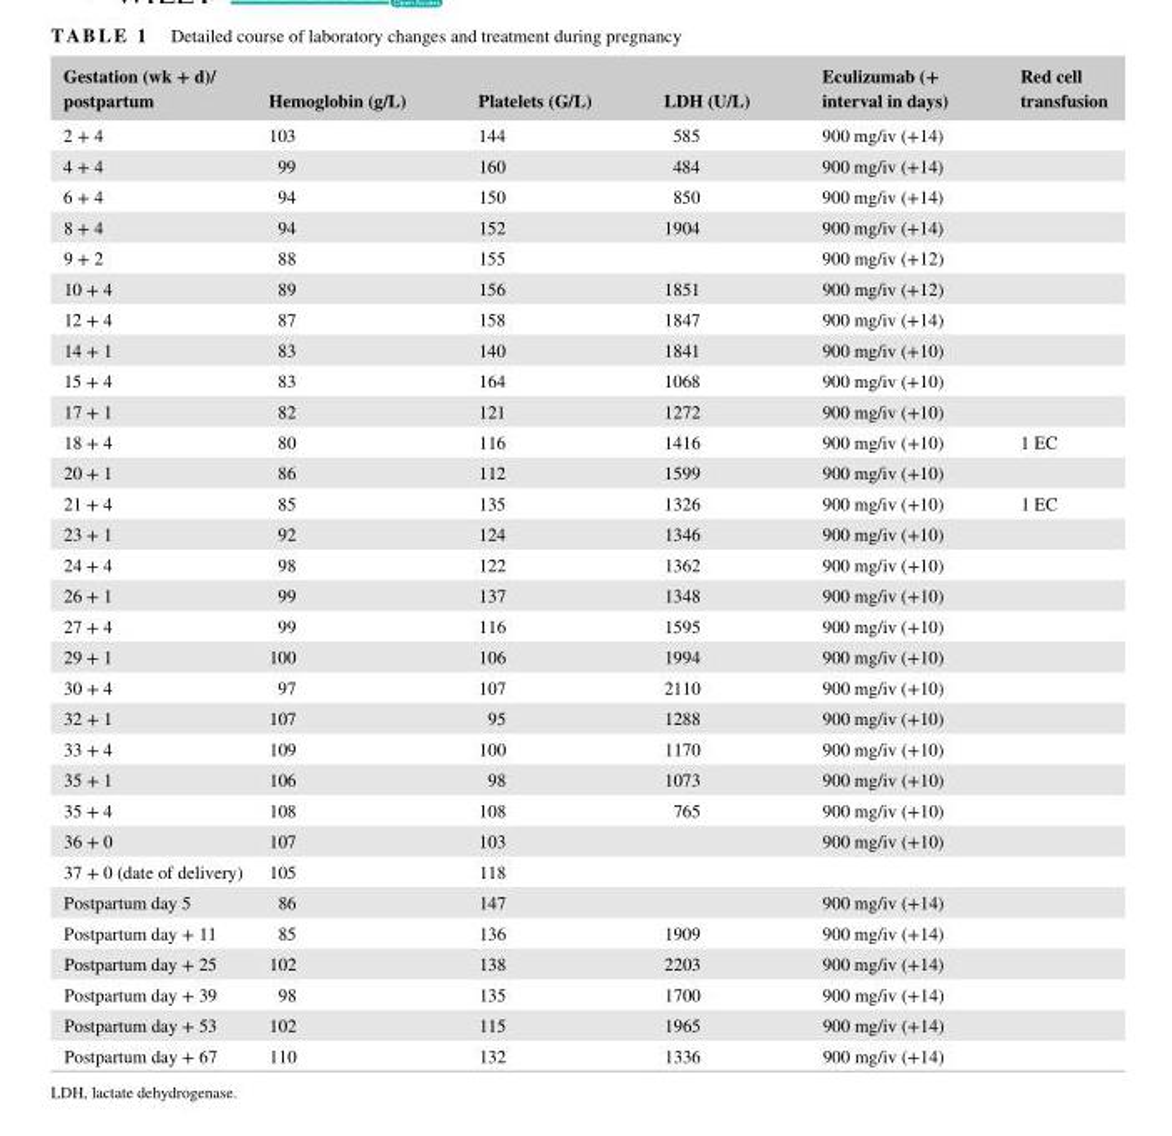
<table><thead><tr><td>Gestation (wk + d)/ postpartum</td><td>Hemoglobin (g/L)</td><td>Platelets (G/L)</td><td>LDH (U/L)</td><td>Eculizumab (+ interval in days)</td><td>Red cell transfusion</td></tr></thead><tbody><tr><td>2 + 4</td><td>103</td><td>144</td><td>585</td><td>900 mg/iv (+14)</td><td></td></tr><tr><td>4 + 4</td><td>99</td><td>160</td><td>484</td><td>900 mg/iv (+14)</td><td></td></tr><tr><td>6 + 4</td><td>94</td><td>150</td><td>850</td><td>900 mg/iv (+14)</td><td></td></tr><tr><td>8 + 4</td><td>94</td><td>152</td><td>1904</td><td>900 mg/iv (+14)</td><td></td></tr><tr><td>9 + 2</td><td>88</td><td>155</td><td></td><td>900 mg/iv (+12)</td><td></td></tr><tr><td>10 + 4</td><td>89</td><td>156</td><td>1851</td><td>900 mg/iv (+12)</td><td></td></tr><tr><td>12 + 4</td><td>87</td><td>158</td><td>1847</td><td>900 mg/iv (+14)</td><td></td></tr><tr><td>14 + 1</td><td>83</td><td>140</td><td>1841</td><td>900 mg/iv (+10)</td><td></td></tr><tr><td>15 + 4</td><td>83</td><td>164</td><td>1068</td><td>900 mg/iv (+10)</td><td></td></tr><tr><td>17 + 1</td><td>82</td><td>121</td><td>1272</td><td>900 mg/iv (+10)</td><td></td></tr><tr><td>18 + 4</td><td>80</td><td>116</td><td>1416</td><td>900 mg/iv (+10)</td><td>1 EC</td></tr><tr><td>20 + 1</td><td>86</td><td>112</td><td>1599</td><td>900 mg/iv (+10)</td><td></td></tr><tr><td>21 + 4</td><td>85</td><td>135</td><td>1326</td><td>900 mg/iv (+10)</td><td>1 EC</td></tr><tr><td>23 + 1</td><td>92</td><td>124</td><td>1346</td><td>900 mg/iv (+10)</td><td></td></tr><tr><td>24 + 4</td><td>98</td><td>122</td><td>1362</td><td>900 mg/iv (+10)</td><td></td></tr><tr><td>26 + 1</td><td>99</td><td>137</td><td>1348</td><td>900 mg/iv (+10)</td><td></td></tr><tr><td>27 + 4</td><td>99</td><td>116</td><td>1595</td><td>900 mg/iv (+10)</td><td></td></tr><tr><td>29 + 1</td><td>100</td><td>106</td><td>1994</td><td>900 mg/iv (+10)</td><td></td></tr><tr><td>30 + 4</td><td>97</td><td>107</td><td>2110</td><td>900 mg/iv (+10)</td><td></td></tr><tr><td>32 + 1</td><td>107</td><td>95</td><td>1288</td><td>900 mg/iv (+10)</td><td></td></tr><tr><td>33 + 4</td><td>109</td><td>100</td><td>1170</td><td>900 mg/iv (+10)</td><td></td></tr><tr><td>35 + 1</td><td>106</td><td>98</td><td>1073</td><td>900 mg/iv (+10)</td><td></td></tr><tr><td>35 + 4</td><td>108</td><td>108</td><td>765</td><td>900 mg/iv (+10)</td><td></td></tr><tr><td>36 + 0</td><td>107</td><td>103</td><td></td><td>900 mg/iv (+10)</td><td></td></tr><tr><td>37 + 0 (date of delivery)</td><td>105</td><td>118</td><td></td><td></td><td></td></tr><tr><td>Postpartum day 5</td><td>86</td><td>147</td><td></td><td>900 mg/iv (+14)</td><td></td></tr><tr><td>Postpartum day + 11</td><td>85</td><td>136</td><td>1909</td><td>900 mg/iv (+14)</td><td></td></tr><tr><td>Postpartum day + 25</td><td>102</td><td>138</td><td>2203</td><td>900 mg/iv (+14)</td><td></td></tr><tr><td>Postpartum day + 39</td><td>98</td><td>135</td><td>1700</td><td>900 mg/iv (+14)</td><td></td></tr><tr><td>Postpartum day + 53</td><td>102</td><td>115</td><td>1965</td><td>900 mg/iv (+14)</td><td></td></tr><tr><td>Postpartum day + 67</td><td>110</td><td>132</td><td>1336</td><td>900 mg/iv (+14)</td><td></td></tr></tbody></table>